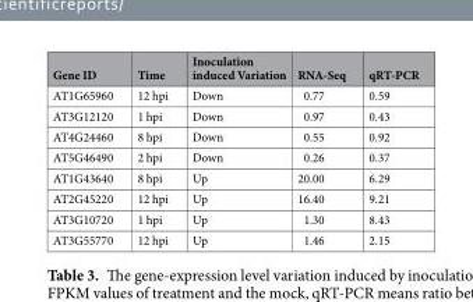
<table><thead><tr><td>Gene ID</td><td>Time</td><td>Inoculation induced Variation</td><td>RNA-Seq</td><td>qRT-PCR</td></tr></thead><tbody><tr><td>AT1G65960</td><td>12 hpi</td><td>Down</td><td>0.77</td><td>0.59</td></tr><tr><td>AT3G12120</td><td>1 hpi</td><td>Down</td><td>0.97</td><td>0.43</td></tr><tr><td>AT4G24460</td><td>8 hpi</td><td>Down</td><td>0.55</td><td>0.92</td></tr><tr><td>AT5G46490</td><td>2 hpi</td><td>Down</td><td>0.26</td><td>0.37</td></tr><tr><td>AT1G43640</td><td>8 hpi</td><td>Up</td><td>20.00</td><td>6.29</td></tr><tr><td>AT2G45220</td><td>12 hpi</td><td>Up</td><td>16.40</td><td>9.21</td></tr><tr><td>AT3G10720</td><td>1 hpi</td><td>Up</td><td>1.30</td><td>8.43</td></tr><tr><td>AT3G55770</td><td>12 hpi</td><td>Up</td><td>1.46</td><td>2.15</td></tr></tbody></table>